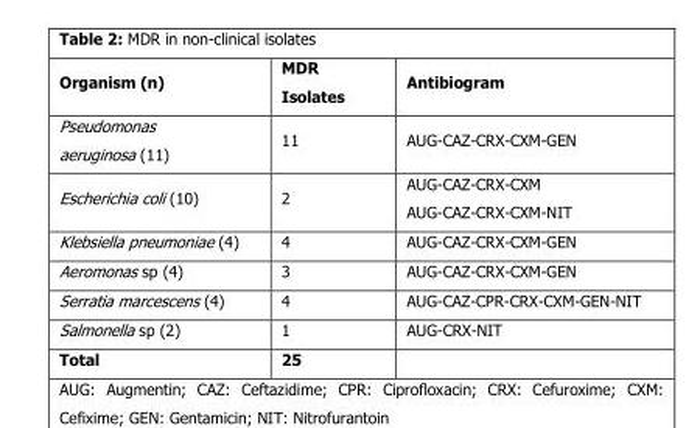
<table><thead><tr><td>Organism (n)</td><td>MDR Isolates</td><td>Antibiogram</td></tr></thead><tbody><tr><td>Pseudomonas aeruginosa (11)</td><td>11</td><td>AUG-CAZ-CRX-CXM-GEN</td></tr><tr><td>Escherichia coli (10)</td><td>2</td><td>AUG-CAZ-CRX-CXM AUG-CAZ-CRX-CXM-NIT</td></tr><tr><td>Klebsiella pneumoniae (4)</td><td>4</td><td>AUG-CAZ-CRX-CXM-GEN</td></tr><tr><td>Aeromonas sp (4)</td><td>3</td><td>AUG-CAZ-CRX-CXM-GEN</td></tr><tr><td>Serratia marcescens (4)</td><td>4</td><td>AUG-CAZ-CPR-CRX-CXM-GEN-NIT</td></tr><tr><td>Salmonella sp (2)</td><td>1</td><td>AUG-CRX-NIT</td></tr><tr><td>Total</td><td>25</td><td></td></tr></tbody></table>